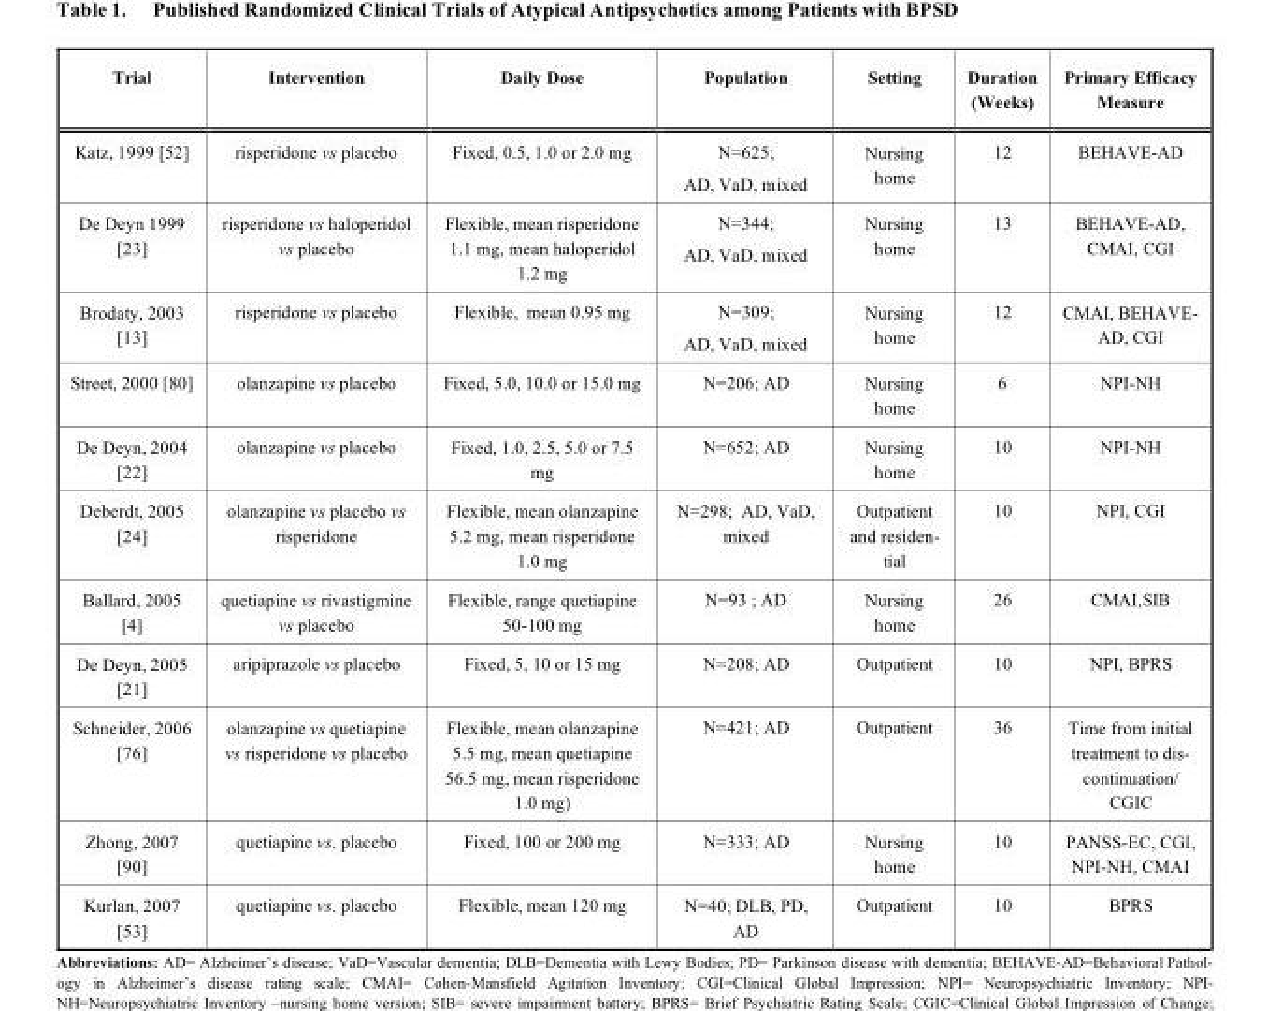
<table><thead><tr><td>Trial</td><td>Intervention</td><td>Daily Dose</td><td>Population</td><td>Setting</td><td>Duration (Weeks)</td><td>Primary Efficacy Measure</td></tr></thead><tbody><tr><td>Katz, 1999 [52]</td><td>risperidone vs placebo</td><td>Fixed, 0.5, 1.0 or 2.0 mg</td><td>N=625; AD, VaD, mixed</td><td>Nursing home</td><td>12</td><td>BEHAVE-AD</td></tr><tr><td>De Deyn 1999 [23]</td><td>risperidone vs haloperidol vs placebo</td><td>Flexible, mean risperidone 1.1 mg, mean haloperidol 1.2 mg</td><td>N=344; AD, VaD, mixed</td><td>Nursing home</td><td>13</td><td>BEHAVE-AD, CMAI, CGI</td></tr><tr><td>Brodaty, 2003 [13]</td><td>risperidone vs placebo</td><td>Flexible, mean 0.95 mg</td><td>N=309; AD, VaD, mixed</td><td>Nursing home</td><td>12</td><td>CMAI, BEHAVE- AD, CGI</td></tr><tr><td>Street, 2000 [80]</td><td>olanzapine vs placebo</td><td>Fixed, 5.0, 10.0 or 15.0 mg</td><td>N=206; AD</td><td>Nursing home</td><td>6</td><td>NPI-NH</td></tr><tr><td>De Deyn, 2004 [22]</td><td>olanzapine vs placebo</td><td>Fixed, 1.0, 2.5, 5.0 or 7.5 mg</td><td>N=652; AD</td><td>Nursing home</td><td>10</td><td>NPI-NH</td></tr><tr><td>Deberdt, 2005 [24]</td><td>olanzapine vs placebo vs risperidone</td><td>Flexible, mean olanzapine 5.2 mg, mean risperidone 1.0 mg</td><td>N=298; AD, VaD, mixed</td><td>Outpatient and residen- tial</td><td>10</td><td>NPI, CGI</td></tr><tr><td>Ballard, 2005 [4]</td><td>quetiapine vs rivastigmine vs placebo</td><td>Flexible, range quetiapine 50-100 mg</td><td>N=93 ; AD</td><td>Nursing home</td><td>26</td><td>CMAI,SIB</td></tr><tr><td>De Deyn, 2005 [21]</td><td>aripiprazole vs placebo</td><td>Fixed, 5, 10 or 15 mg</td><td>N=208; AD</td><td>Outpatient</td><td>10</td><td>NPI, BPRS</td></tr><tr><td>Schneider, 2006 [76]</td><td>olanzapine vs quetiapine vs risperidone vs placebo</td><td>Flexible, mean olanzapine 5.5 mg, mean quetiapine 56.5 mg, mean risperidone 1.0 mg)</td><td>N=421; AD</td><td>Outpatient</td><td>36</td><td>Time from initial treatment to dis- continuation/ CGIC</td></tr><tr><td>Zhong, 2007 [90]</td><td>quetiapine vs. placebo</td><td>Fixed, 100 or 200 mg</td><td>N=333; AD</td><td>Nursing home</td><td>10</td><td>PANSS-EC, CGI, NPI-NH, CMAI</td></tr><tr><td>Kurlan, 2007 [53]</td><td>quetiapine vs. placebo</td><td>Flexible, mean 120 mg</td><td>N=40; DLB, PD, AD</td><td>Outpatient</td><td>10</td><td>BPRS</td></tr></tbody></table>